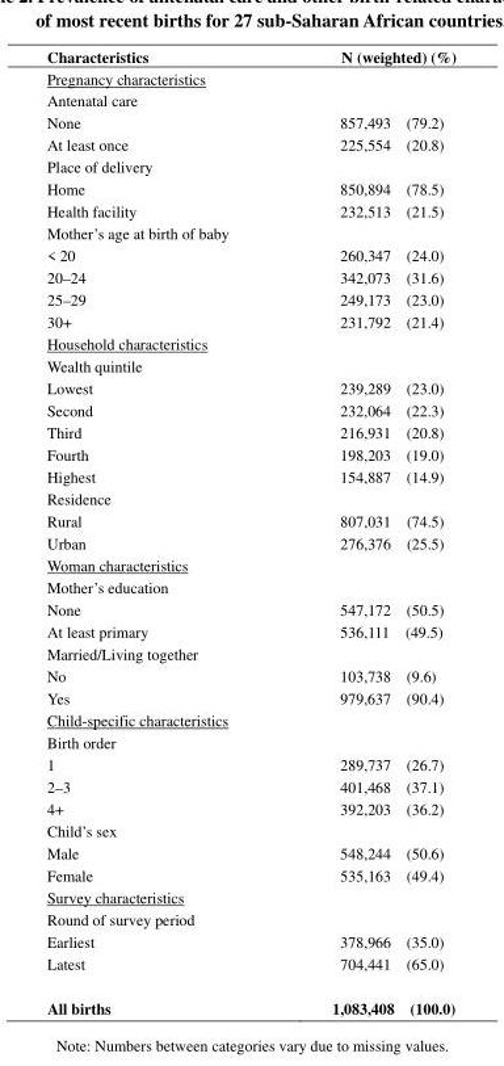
<table><thead><tr><td>Characteristics</td><td>N (weighted) (%)</td></tr></thead><tbody><tr><td colspan="2">Pregnancy characteristics</td></tr><tr><td colspan="2">Antenatal care</td></tr><tr><td>None</td><td>857,493 (79.2)</td></tr><tr><td>At least once</td><td>225,554 (20.8)</td></tr><tr><td colspan="2">Place of delivery</td></tr><tr><td>Home</td><td>850,894 (78.5)</td></tr><tr><td>Health facility</td><td>232,513 (21.5)</td></tr><tr><td colspan="2">Mother’s age at birth of baby</td></tr><tr><td>&lt; 20</td><td>260,347 (24.0)</td></tr><tr><td>20–24</td><td>342,073 (31.6)</td></tr><tr><td>25–29</td><td>249,173 (23.0)</td></tr><tr><td>30+</td><td>231,792 (21.4)</td></tr><tr><td colspan="2">Household characteristics</td></tr><tr><td colspan="2">Wealth quintile</td></tr><tr><td>Lowest</td><td>239,289 (23.0)</td></tr><tr><td>Second</td><td>232,064 (22.3)</td></tr><tr><td>Third</td><td>216,931 (20.8)</td></tr><tr><td>Fourth</td><td>198,203 (19.0)</td></tr><tr><td>Highest</td><td>154,887 (14.9)</td></tr><tr><td colspan="2">Residence</td></tr><tr><td>Rural</td><td>807,031 (74.5)</td></tr><tr><td>Urban</td><td>276,376 (25.5)</td></tr><tr><td colspan="2">Woman characteristics</td></tr><tr><td colspan="2">Mother’s education</td></tr><tr><td>None</td><td>547,172 (50.5)</td></tr><tr><td>At least primary</td><td>536,111 (49.5)</td></tr><tr><td colspan="2">Married/Living together</td></tr><tr><td>No</td><td>103,738 (9.6)</td></tr><tr><td>Yes</td><td>979,637 (90.4)</td></tr><tr><td colspan="2">Child-specific characteristics</td></tr><tr><td colspan="2">Birth order</td></tr><tr><td>1</td><td>289,737 (26.7)</td></tr><tr><td>2–3</td><td>401,468 (37.1)</td></tr><tr><td>4+</td><td>392,203 (36.2)</td></tr><tr><td colspan="2">Child’s sex</td></tr><tr><td>Male</td><td>548,244 (50.6)</td></tr><tr><td>Female</td><td>535,163 (49.4)</td></tr><tr><td colspan="2">Survey characteristics</td></tr><tr><td colspan="2">Round of survey period</td></tr><tr><td>Earliest</td><td>378,966 (35.0)</td></tr><tr><td>Latest</td><td>704,441 (65.0)</td></tr><tr><td>All births</td><td>1,083,408 (100.0)</td></tr></tbody></table>